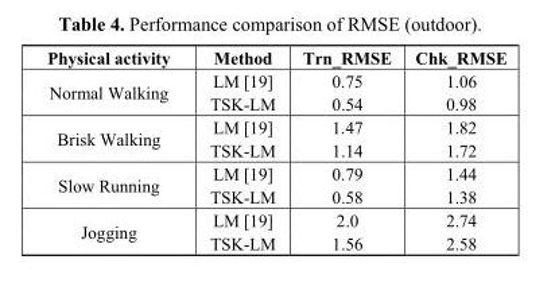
<table><thead><tr><td>Physical activity</td><td>Method</td><td>Trn_RMSE</td><td>Chk_RMSE</td></tr></thead><tbody><tr><td rowspan="2">Normal Walking</td><td>LM [19]</td><td>0.75</td><td>1.06</td></tr><tr><td>TSK-LM</td><td>0.54</td><td>0.98</td></tr><tr><td rowspan="2">Brisk Walking</td><td>LM [19]</td><td>1.47</td><td>1.82</td></tr><tr><td>TSK-LM</td><td>1.14</td><td>1.72</td></tr><tr><td rowspan="2">Slow Running</td><td>LM [19]</td><td>0.79</td><td>1.44</td></tr><tr><td>TSK-LM</td><td>0.58</td><td>1.38</td></tr><tr><td rowspan="2">Jogging</td><td>LM [19]</td><td>2.0</td><td>2.74</td></tr><tr><td>TSK-LM</td><td>1.56</td><td>2.58</td></tr></tbody></table>